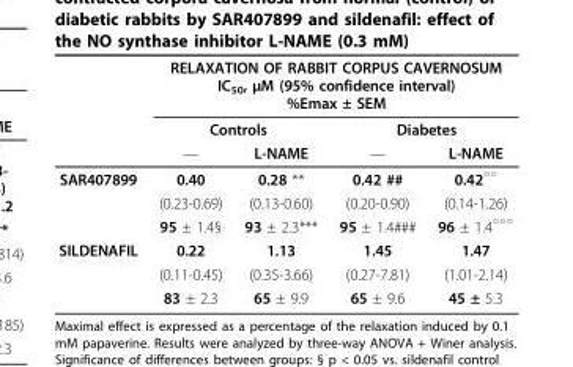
<table><thead><tr><td rowspan="3"></td><td colspan="4">RELAXATION OF RABBIT CORPUS CAVERNOSUM IC<sub>50</sub>, μM (95% confidence interval) %Emax ± SEM</td></tr><tr><td colspan="2">Controls</td><td colspan="2">Diabetes</td></tr><tr><td>—</td><td>L-NAME</td><td>—</td><td>L-NAME</td></tr></thead><tbody><tr><td rowspan="3">SAR407899</td><td>0.40</td><td>0.28 **</td><td>0.42 ##</td><td>0.42<sup>○○</sup></td></tr><tr><td>(0.23-0.69)</td><td>(0.13-0.60)</td><td>(0.20-0.90)</td><td>(0.14-1.26)</td></tr><tr><td>95 ± 1.4§</td><td>93 ± 2.3***</td><td>95 ± 1.4###</td><td>96 ± 1.4<sup>○○○</sup></td></tr><tr><td rowspan="3">SILDENAFIL</td><td>0.22</td><td>1.13</td><td>1.45</td><td>1.47</td></tr><tr><td>(0.11-0.45)</td><td>(0.35-3.66)</td><td>(0.27-7.81)</td><td>(1.01-2.14)</td></tr><tr><td>83 ± 2.3</td><td>65 ± 9.9</td><td>65 ± 9.6</td><td>45 ± 5.3</td></tr></tbody></table>